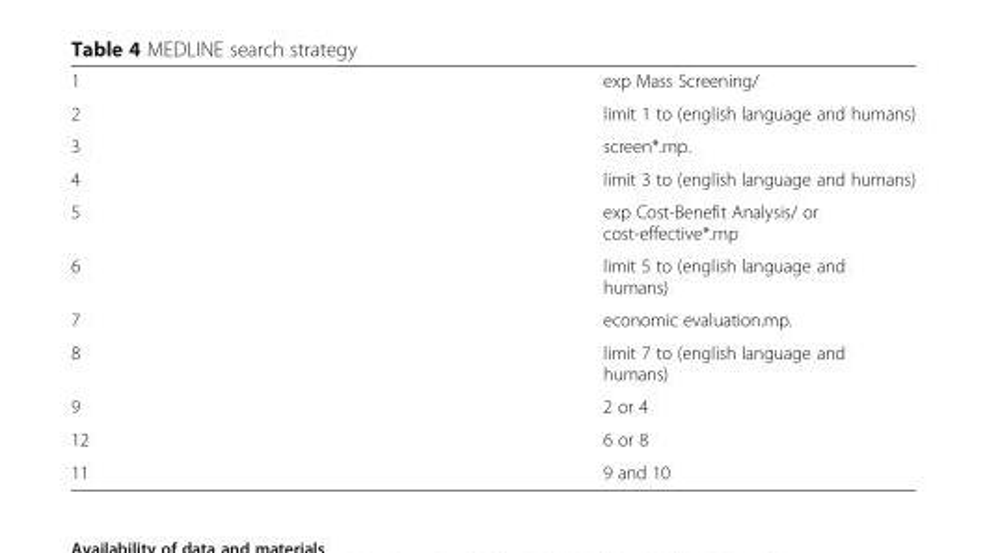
<table><tbody><tr><td>1</td><td>exp Mass Screening/</td></tr><tr><td>2</td><td>limit 1 to (english language and humans)</td></tr><tr><td>3</td><td>screen*.mp.</td></tr><tr><td>4</td><td>limit 3 to (english language and humans)</td></tr><tr><td>5</td><td>exp Cost-Benefit Analysis/ or cost-effective*.mp</td></tr><tr><td>6</td><td>limit 5 to (english language and humans)</td></tr><tr><td>7</td><td>economic evaluation.mp.</td></tr><tr><td>8</td><td>limit 7 to (english language and humans)</td></tr><tr><td>9</td><td>2 or 4</td></tr><tr><td>12</td><td>6 or 8</td></tr><tr><td>11</td><td>9 and 10</td></tr></tbody></table>